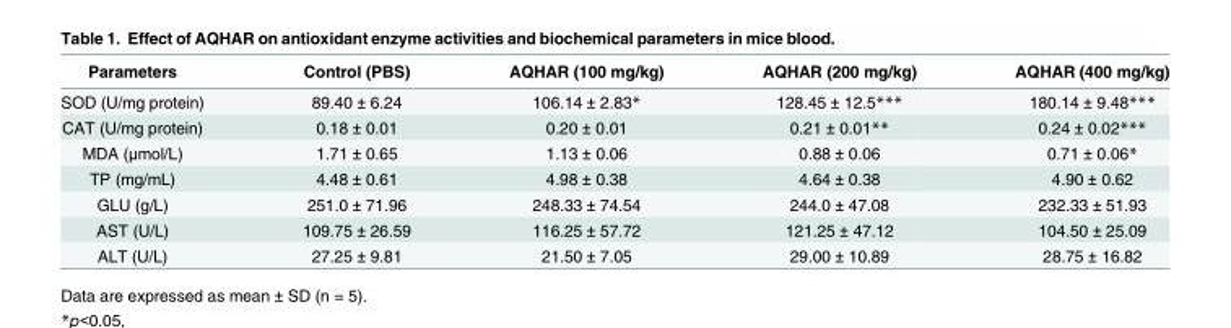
<table><thead><tr><td>Parameters</td><td>Control (PBS)</td><td>AQHAR (100 mg/kg)</td><td>AQHAR (200 mg/kg)</td><td>AQHAR (400 mg/kg)</td></tr></thead><tbody><tr><td>SOD (U/mg protein)</td><td>89.40 ± 6.24</td><td>106.14 ± 2.83*</td><td>128.45 ± 12.5***</td><td>180.14 ± 9.48***</td></tr><tr><td>CAT (U/mg protein)</td><td>0.18 ± 0.01</td><td>0.20 ± 0.01</td><td>0.21 ± 0.01**</td><td>0.24 ± 0.02***</td></tr><tr><td>MDA (μmol/L)</td><td>1.71 ± 0.65</td><td>1.13 ± 0.06</td><td>0.88 ± 0.06</td><td>0.71 ± 0.06*</td></tr><tr><td>TP (mg/mL)</td><td>4.48 ± 0.61</td><td>4.98 ± 0.38</td><td>4.64 ± 0.38</td><td>4.90 ± 0.62</td></tr><tr><td>GLU (g/L)</td><td>251.0 ± 71.96</td><td>248.33 ± 74.54</td><td>244.0 ± 47.08</td><td>232.33 ± 51.93</td></tr><tr><td>AST (U/L)</td><td>109.75 ± 26.59</td><td>116.25 ± 57.72</td><td>121.25 ± 47.12</td><td>104.50 ± 25.09</td></tr><tr><td>ALT (U/L)</td><td>27.25 ± 9.81</td><td>21.50 ± 7.05</td><td>29.00 ± 10.89</td><td>28.75 ± 16.82</td></tr></tbody></table>